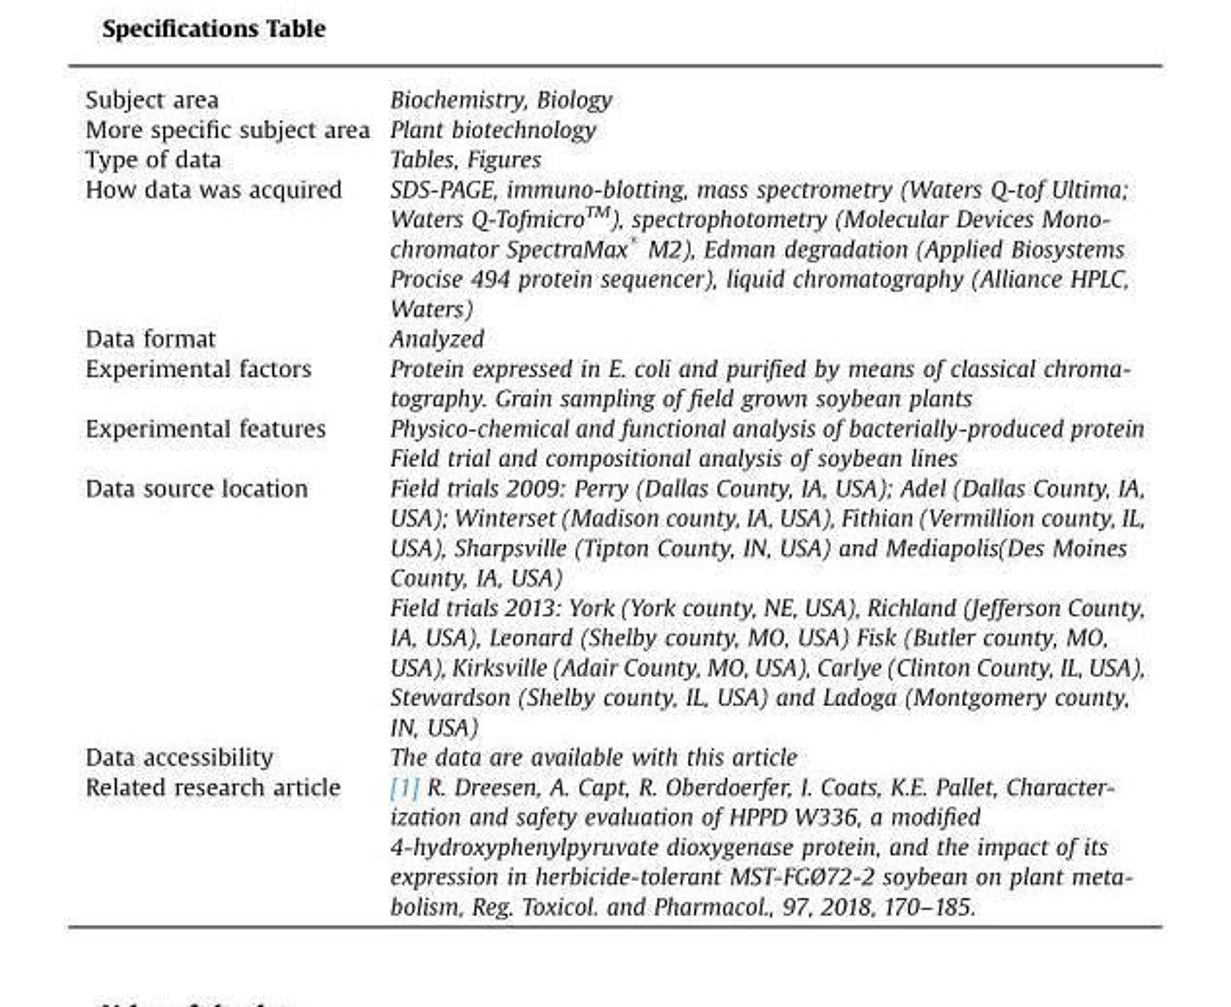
<table><thead><tr><td>Subject area</td><td>Biochemistry, Biology</td></tr></thead><tbody><tr><td>More specific subject area</td><td>Plant biotechnology</td></tr><tr><td>Type of data</td><td>Tables, Figures</td></tr><tr><td>How data was acquired</td><td>SDS-PAGE, immuno-blotting, mass spectrometry (Waters Q-tof Ultima; Waters Q-TofmicroTM), spectrophotometry (Molecular Devices Mono- chromator SpectraMax s M2), Edman degradation (Applied Biosystems Procise 494 protein sequencer), liquid chromatography (Alliance HPLC, Waters)</td></tr><tr><td>Data format</td><td>Analyzed</td></tr><tr><td>Experimental factors</td><td>Protein expressed in E. coli and purified by means of classical chroma- tography. Grain sampling of field grown soybean plants</td></tr><tr><td rowspan="2">Experimental features</td><td>Physico-chemical and functional analysis of bacterially-produced protein</td></tr><tr><td>Field trial and compositional analysis of soybean lines</td></tr><tr><td rowspan="2">Data source location</td><td>Field trials 2009: Perry (Dallas County, IA, USA); Adel (Dallas County, IA, USA); Winterset (Madison county, IA, USA), Fithian (Vermillion county, IL, USA), Sharpsville (Tipton County, IN, USA) and Mediapolis(Des Moines County, IA, USA)</td></tr><tr><td>Field trials 2013: York (York county, NE, USA), Richland (Jefferson County, IA, USA), Leonard (Shelby county, MO, USA) Fisk (Butler county, MO, USA), Kirksville (Adair County, MO, USA), Carlye (Clinton County, IL, USA), Stewardson (Shelby county, IL, USA) and Ladoga (Montgomery county, IN, USA)</td></tr><tr><td>Data accessibility</td><td>The data are available with this article</td></tr><tr><td>Related research article</td><td>[1] R. Dreesen, A. Capt, R. Oberdoerfer, I. Coats, K.E. Pallet, Character- ization and safety evaluation of HPPD W336, a modified 4-hydroxyphenylpyruvate dioxygenase protein, and the impact of its expression in herbicide-tolerant MST-FGØ72-2 soybean on plant meta- bolism, Reg. Toxicol. and Pharmacol., 97, 2018, 170–185.</td></tr></tbody></table>